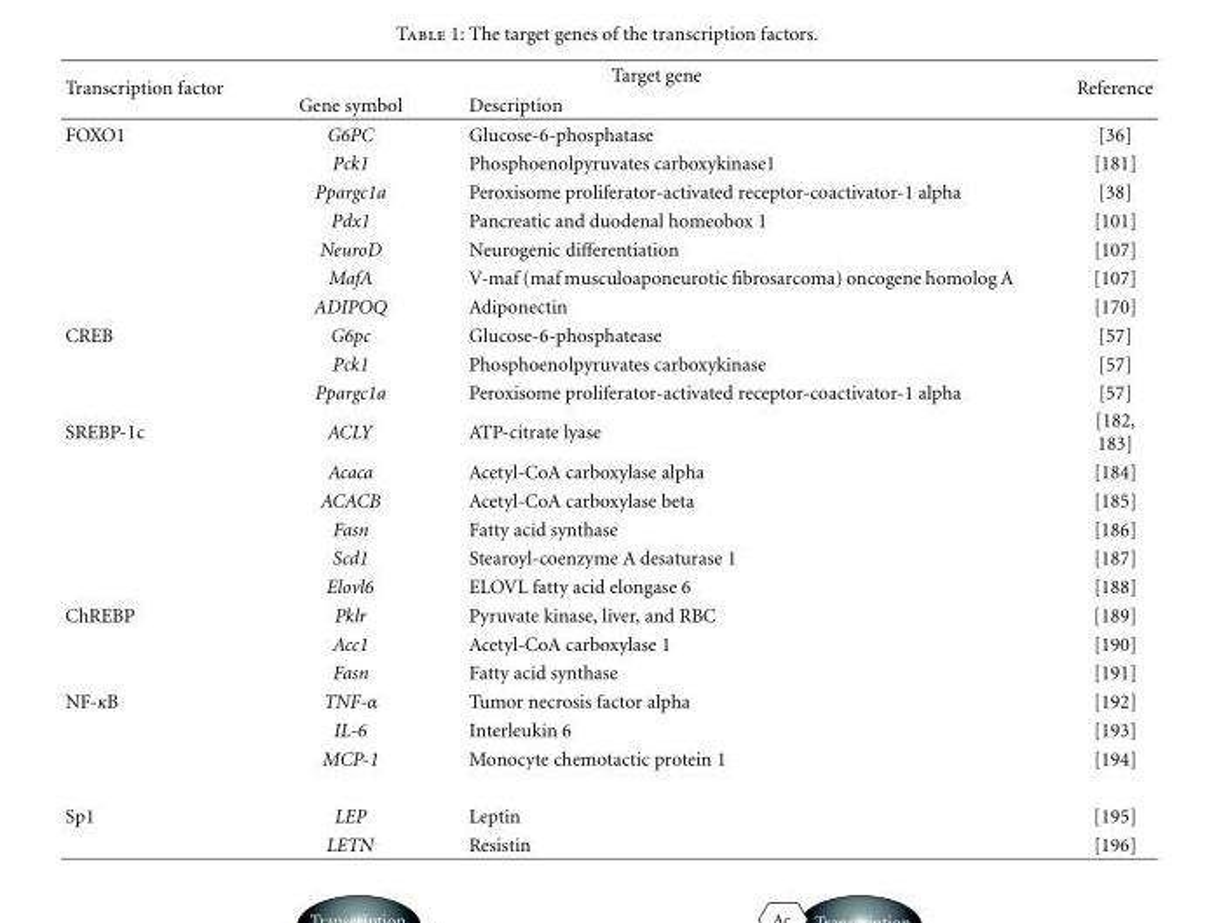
<table><thead><tr><td rowspan="2">Transcription factor</td><td colspan="2">Target gene</td><td rowspan="2">Reference</td></tr><tr><td>Gene symbol</td><td>Description</td></tr></thead><tbody><tr><td rowspan="7">FOXO1</td><td>G6PC</td><td>Glucose-6-phosphatase</td><td>[36]</td></tr><tr><td>Pck1</td><td>Phosphoenolpyruvates carboxykinase1</td><td>[181]</td></tr><tr><td>Ppargc1a</td><td>Peroxisome proliferator-activated receptor-coactivator-1 alpha</td><td>[38]</td></tr><tr><td>Pdx1</td><td>Pancreatic and duodenal homeobox 1</td><td>[101]</td></tr><tr><td>NeuroD</td><td>Neurogenic differentiation</td><td>[107]</td></tr><tr><td>MafA</td><td>V-maf (maf musculoaponeurotic fibrosarcoma) oncogene homolog A</td><td>[107]</td></tr><tr><td>ADIPOQ</td><td>Adiponectin</td><td>[170]</td></tr><tr><td rowspan="3">CREB</td><td>G6pc</td><td>Glucose-6-phosphatease</td><td>[57]</td></tr><tr><td>Pck1</td><td>Phosphoenolpyruvates carboxykinase</td><td>[57]</td></tr><tr><td>Ppargc1a</td><td>Peroxisome proliferator-activated receptor-coactivator-1 alpha</td><td>[57]</td></tr><tr><td rowspan="6">SREBP-1c</td><td>ACLY</td><td>ATP-citrate lyase</td><td>[182, 183]</td></tr><tr><td>Acaca</td><td>Acetyl-CoA carboxylase alpha</td><td>[184]</td></tr><tr><td>ACACB</td><td>Acetyl-CoA carboxylase beta</td><td>[185]</td></tr><tr><td>Fasn</td><td>Fatty acid synthase</td><td>[186]</td></tr><tr><td>Scd1</td><td>Stearoyl-coenzyme A desaturase 1</td><td>[187]</td></tr><tr><td>Elovl6</td><td>ELOVL fatty acid elongase 6</td><td>[188]</td></tr><tr><td rowspan="3">ChREBP</td><td>Pklr</td><td>Pyruvate kinase, liver, and RBC</td><td>[189]</td></tr><tr><td>Acc1</td><td>Acetyl-CoA carboxylase 1</td><td>[190]</td></tr><tr><td>Fasn</td><td>Fatty acid synthase</td><td>[191]</td></tr><tr><td rowspan="3">NF-κB</td><td>TNF-α</td><td>Tumor necrosis factor alpha</td><td>[192]</td></tr><tr><td>IL-6</td><td>Interleukin 6</td><td>[193]</td></tr><tr><td>MCP-1</td><td>Monocyte chemotactic protein 1</td><td>[194]</td></tr><tr><td rowspan="2">Sp1</td><td>LEP</td><td>Leptin</td><td>[195]</td></tr><tr><td>LETN</td><td>Resistin</td><td>[196]</td></tr></tbody></table>